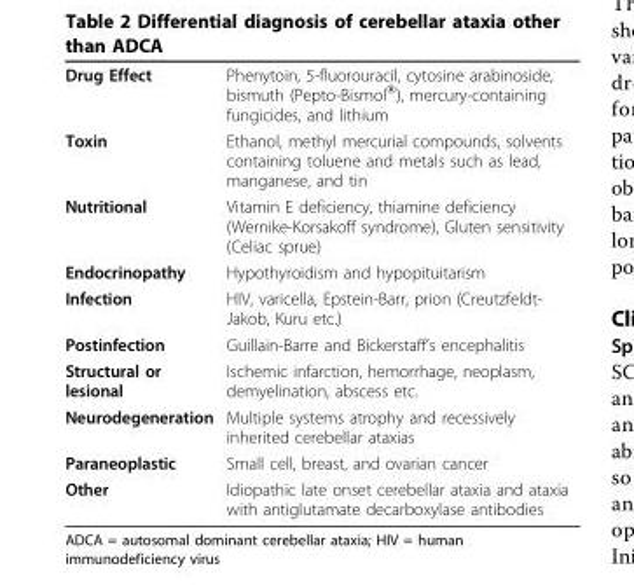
<table><tbody><tr><td>Drug Effect</td><td>Phenytoin, 5-fluorouracil, cytosine arabinoside, bismuth (Pepto-Bismol<sup>®</sup>), mercury-containing fungicides, and lithium</td></tr><tr><td>Toxin</td><td>Ethanol, methyl mercurial compounds, solvents containing toluene and metals such as lead, manganese, and tin</td></tr><tr><td>Nutritional</td><td>Vitamin E deficiency, thiamine deficiency (Wernike-Korsakoff syndrome), Gluten sensitivity (Celiac sprue)</td></tr><tr><td>Endocrinopathy</td><td>Hypothyroidism and hypopituitarism</td></tr><tr><td>Infection</td><td>HIV, varicella, Epstein-Barr, prion (Creutzfeldt- Jakob, Kuru etc.)</td></tr><tr><td>Postinfection</td><td>Guillain-Barre and Bickerstaff’s encephalitis</td></tr><tr><td>Structural or lesional</td><td>Ischemic infarction, hemorrhage, neoplasm, demyelination, abscess etc.</td></tr><tr><td>Neurodegeneration</td><td>Multiple systems atrophy and recessively inherited cerebellar ataxias</td></tr><tr><td>Paraneoplastic</td><td>Small cell, breast, and ovarian cancer</td></tr><tr><td>Other</td><td>Idiopathic late onset cerebellar ataxia and ataxia with antiglutamate decarboxylase antibodies</td></tr></tbody></table>